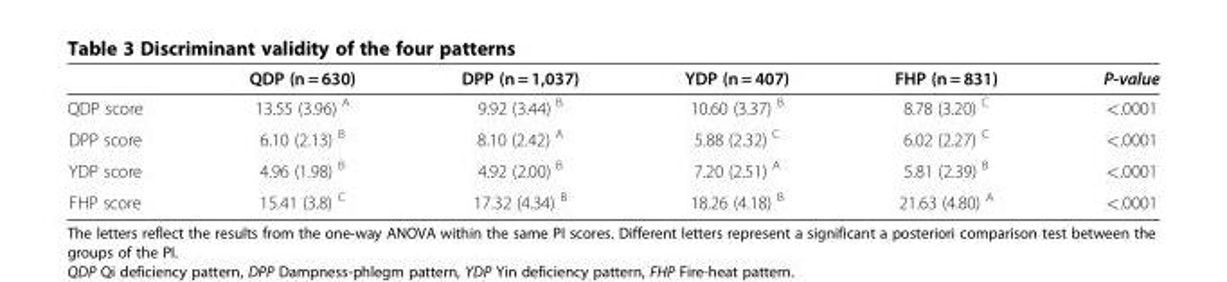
<table><thead><tr><td></td><td>QDP (n = 630)</td><td>DPP (n = 1,037)</td><td>YDP (n = 407)</td><td>FHP (n = 831)</td><td>P-value</td></tr></thead><tbody><tr><td>QDP score</td><td>13.55 (3.96) <sup>A</sup></td><td>9.92 (3.44) <sup>B</sup></td><td>10.60 (3.37) <sup>B</sup></td><td>8.78 (3.20) <sup>C</sup></td><td>&lt;.0001</td></tr><tr><td>DPP score</td><td>6.10 (2.13) <sup>B</sup></td><td>8.10 (2.42) <sup>A</sup></td><td>5.88 (2.32) <sup>C</sup></td><td>6.02 (2.27) <sup>C</sup></td><td>&lt;.0001</td></tr><tr><td>YDP score</td><td>4.96 (1.98) <sup>B</sup></td><td>4.92 (2.00) <sup>B</sup></td><td>7.20 (2.51) <sup>A</sup></td><td>5.81 (2.39) <sup>B</sup></td><td>&lt;.0001</td></tr><tr><td>FHP score</td><td>15.41 (3.8) <sup>C</sup></td><td>17.32 (4.34) <sup>B</sup></td><td>18.26 (4.18) <sup>B</sup></td><td>21.63 (4.80) <sup>A</sup></td><td>&lt;.0001</td></tr></tbody></table>